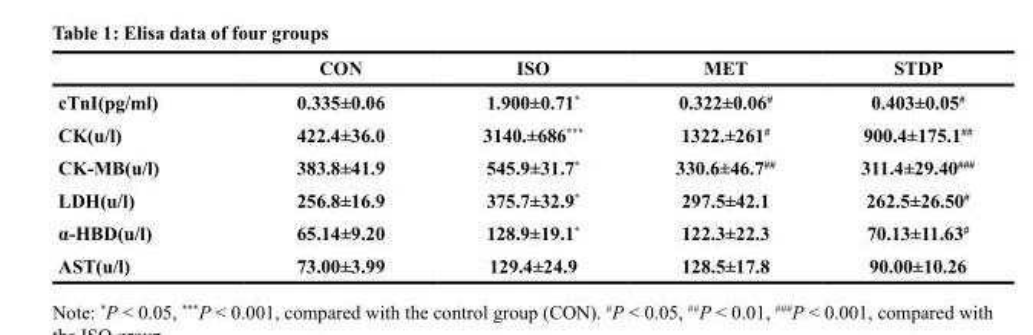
<table><thead><tr><td></td><td>CON</td><td>ISO</td><td>MET</td><td>STDP</td></tr></thead><tbody><tr><td>cTnI(pg/ml)</td><td>0.335±0.06</td><td>1.900±0.71*</td><td>0.322±0.06<sup>#</sup></td><td>0.403±0.05<sup>#</sup></td></tr><tr><td>CK(u/l)</td><td>422.4±36.0</td><td>3140.±686***</td><td>1322.±261<sup>#</sup></td><td>900.4±175.1<sup>##</sup></td></tr><tr><td>CK-MB(u/l)</td><td>383.8±41.9</td><td>545.9±31.7*</td><td>330.6±46.7<sup>##</sup></td><td>311.4±29.40<sup>###</sup></td></tr><tr><td>LDH(u/l)</td><td>256.8±16.9</td><td>375.7±32.9*</td><td>297.5±42.1</td><td>262.5±26.50<sup>#</sup></td></tr><tr><td>α-HBD(u/l)</td><td>65.14±9.20</td><td>128.9±19.1*</td><td>122.3±22.3</td><td>70.13±11.63<sup>#</sup></td></tr><tr><td>AST(u/l)</td><td>73.00±3.99</td><td>129.4±24.9</td><td>128.5±17.8</td><td>90.00±10.26</td></tr></tbody></table>